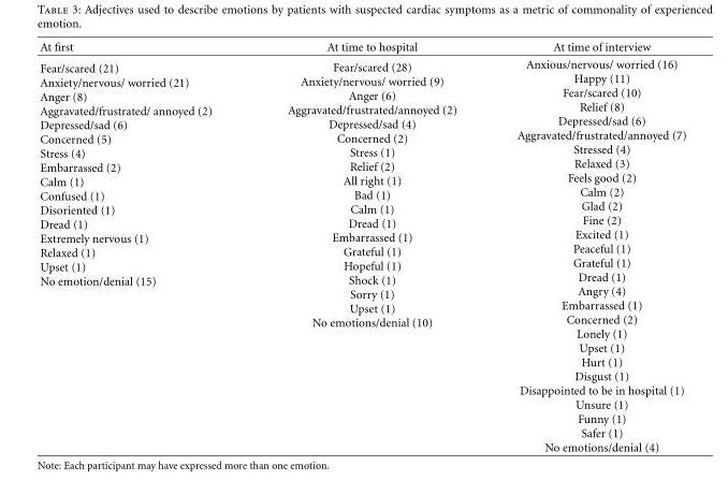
<table><thead><tr><td>At first</td><td>At time to hospital</td><td>At time of interview</td></tr></thead><tbody><tr><td>Fear/scared (21) Anxiety/nervous/ worried (21) Anger (8) Aggravated/frustrated/ annoyed (2) Depressed/sad (6) Concerned (5) Stress (4) Embarrassed (2) Calm (1) Confused (1) Disoriented (1) Dread (1) Extremely nervous (1) Relaxed (1) Upset (1) No emotion/denial (15)</td><td>Fear/scared (28) Anxiety/nervous/ worried (9) Anger (6) Aggravated/frustrated/annoyed (2) Depressed/sad (4) Concerned (2) Stress (1) Relief (2) All right (1) Bad (1) Calm (1) Dread (1) Embarrassed (1) Grateful (1) Hopeful (1) Shock (1) Sorry (1) Upset (1) No emotions/denial (10)</td><td>Anxious/nervous/ worried (16) Happy (11) Fear/scared (10) Relief (8) Depressed/sad (6) Aggravated/frustrated/annoyed (7) Stressed (4) Relaxed (3) Feels good (2) Calm (2) Glad (2) Fine (2) Excited (1) Peaceful (1) Grateful (1) Dread (1) Angry (4) Embarrassed (1) Concerned (2) Lonely (1) Upset (1) Hurt (1) Disgust (1) Disappointed to be in hospital (1) Unsure (1) Funny (1) Safer (1) No emotions/denial (4)</td></tr></tbody></table>